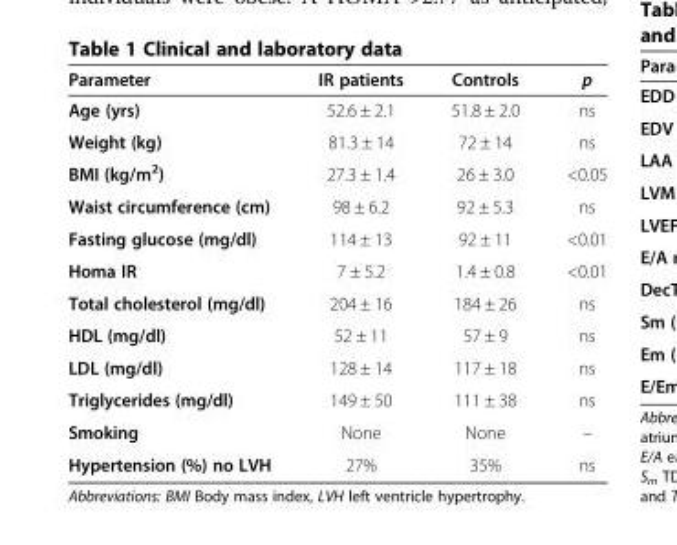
<table><thead><tr><td>Parameter</td><td>IR patients</td><td>Controls</td><td>p</td></tr></thead><tbody><tr><td>Age (yrs)</td><td>52.6 ± 2.1</td><td>51.8 ± 2.0</td><td>ns</td></tr><tr><td>Weight (kg)</td><td>81.3 ± 14</td><td>72 ± 14</td><td>ns</td></tr><tr><td>BMI (kg/m<sup>2</sup>)</td><td>27.3 ± 1.4</td><td>26 ± 3.0</td><td>&lt;0.05</td></tr><tr><td>Waist circumference (cm)</td><td>98 ± 6.2</td><td>92 ± 5.3</td><td>ns</td></tr><tr><td>Fasting glucose (mg/dl)</td><td>114 ± 13</td><td>92 ± 11</td><td>&lt;0.01</td></tr><tr><td>Homa IR</td><td>7 ± 5.2</td><td>1.4 ± 0.8</td><td>&lt;0.01</td></tr><tr><td>Total cholesterol (mg/dl)</td><td>204 ± 16</td><td>184 ± 26</td><td>ns</td></tr><tr><td>HDL (mg/dl)</td><td>52 ± 11</td><td>57 ± 9</td><td>ns</td></tr><tr><td>LDL (mg/dl)</td><td>128 ± 14</td><td>117 ± 18</td><td>ns</td></tr><tr><td>Triglycerides (mg/dl)</td><td>149 ± 50</td><td>111 ± 38</td><td>ns</td></tr><tr><td>Smoking</td><td>None</td><td>None</td><td>–</td></tr><tr><td>Hypertension (%) no LVH</td><td>27%</td><td>35%</td><td>ns</td></tr></tbody></table>